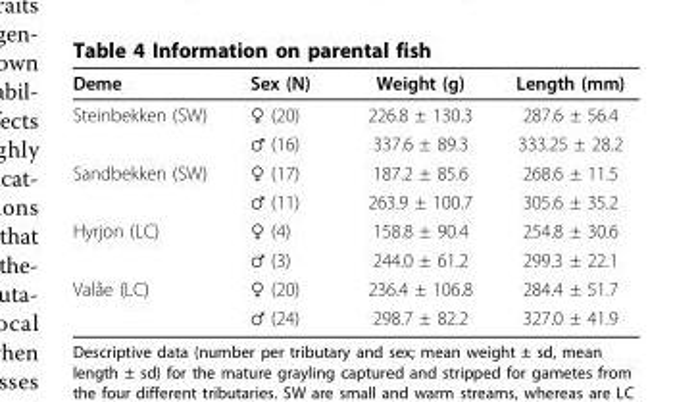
<table><thead><tr><td>Deme</td><td>Sex (N)</td><td>Weight (g)</td><td>Length (mm)</td></tr></thead><tbody><tr><td rowspan="2">Steinbekken (SW)</td><td>♀ (20)</td><td>226.8 ± 130.3</td><td>287.6 ± 56.4</td></tr><tr><td>♂ (16)</td><td>337.6 ± 89.3</td><td>333.25 ± 28.2</td></tr><tr><td rowspan="2">Sandbekken (SW)</td><td>♀ (17)</td><td>187.2 ± 85.6</td><td>268.6 ± 11.5</td></tr><tr><td>♂ (11)</td><td>263.9 ± 100.7</td><td>305.6 ± 35.2</td></tr><tr><td rowspan="2">Hyrjon (LC)</td><td>♀ (4)</td><td>158.8 ± 90.4</td><td>254.8 ± 30.6</td></tr><tr><td>♂ (3)</td><td>244.0 ± 61.2</td><td>299.3 ± 22.1</td></tr><tr><td rowspan="2">Valåe (LC)</td><td>♀ (20)</td><td>236.4 ± 106.8</td><td>284.4 ± 51.7</td></tr><tr><td>♂ (24)</td><td>298.7 ± 82.2</td><td>327.0 ± 41.9</td></tr></tbody></table>